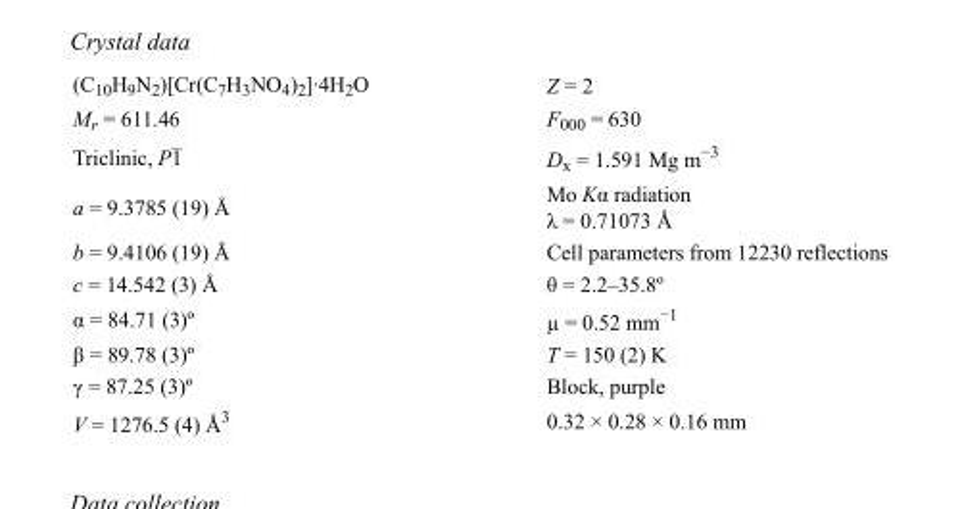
<table><tbody><tr><td>(C<sub>10</sub>H<sub>9</sub>N<sub>2</sub>)[Cr(C<sub>7</sub>H<sub>3</sub>NO<sub>4</sub>)<sub>2</sub>]·4H<sub>2</sub>O</td><td>Z = 2</td></tr><tr><td>M<sub>r</sub> = 611.46</td><td>F<sub>000</sub> = 630</td></tr><tr><td>Triclinic, P1</td><td>D<sub>x</sub> = 1.591 Mg m<sup>−3</sup></td></tr><tr><td>a = 9.3785 (19) Å</td><td>Mo Kα radiation λ = 0.71073 Å</td></tr><tr><td>b = 9.4106 (19) Å</td><td>Cell parameters from 12230 reflections</td></tr><tr><td>c = 14.542 (3) Å</td><td>θ = 2.2–35.8º</td></tr><tr><td>α = 84.71 (3)º</td><td>µ = 0.52 mm<sup>−1</sup></td></tr><tr><td>β = 89.78 (3)º</td><td>T = 150 (2) K</td></tr><tr><td>γ = 87.25 (3)º</td><td>Block, purple</td></tr><tr><td>V = 1276.5 (4) Å<sup>3</sup></td><td>0.32 × 0.28 × 0.16 mm</td></tr></tbody></table>